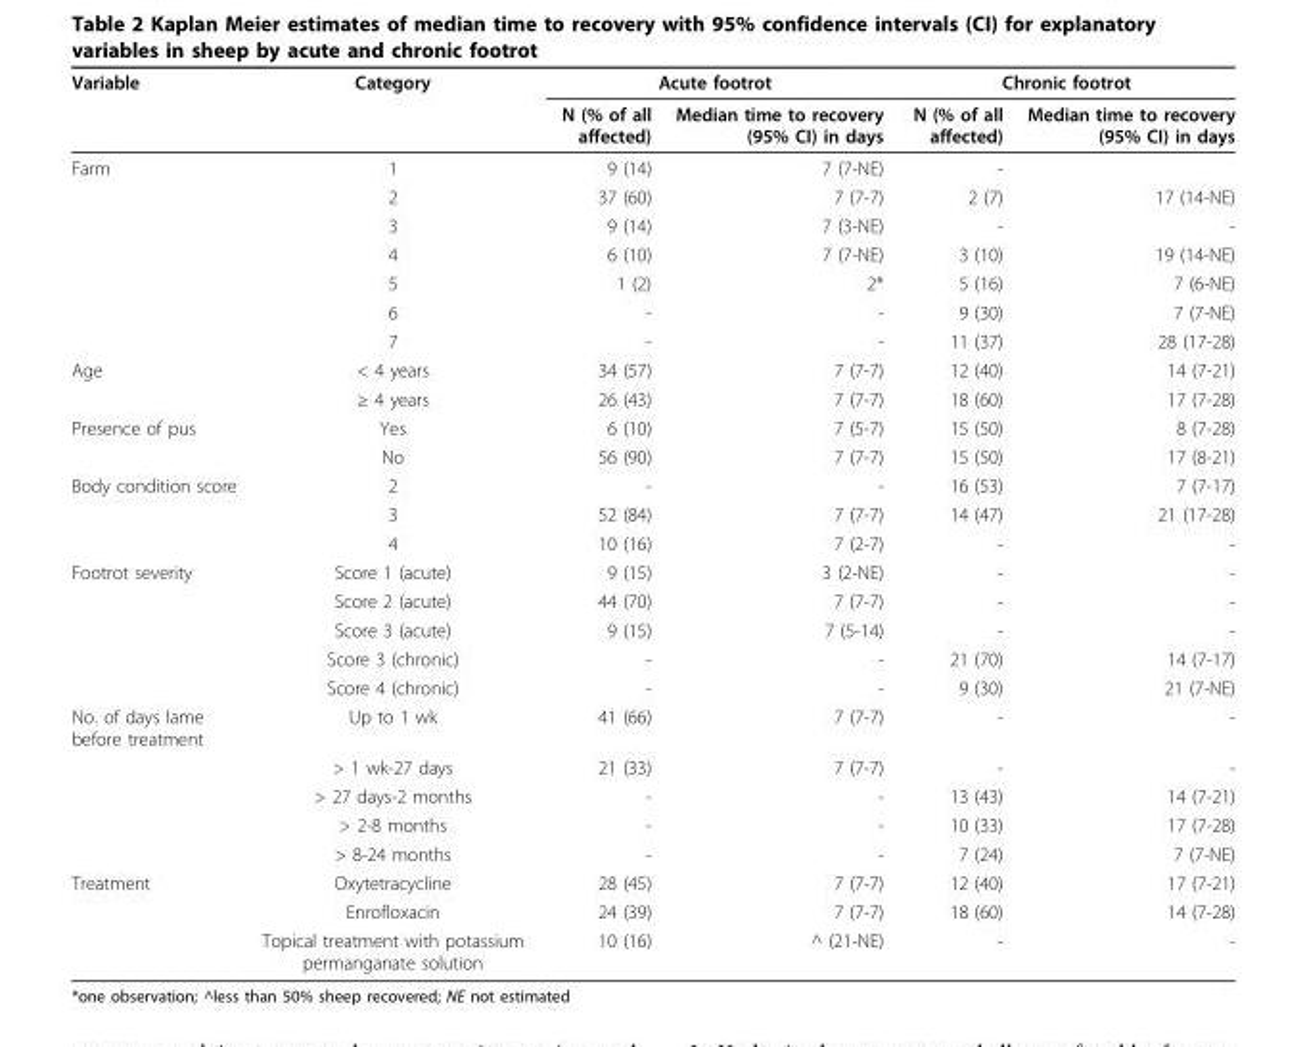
<table><thead><tr><td rowspan="2">Variable</td><td rowspan="2">Category</td><td colspan="2">Acute footrot</td><td colspan="2">Chronic footrot</td></tr><tr><td>N (% of all affected)</td><td>Median time to recovery (95% CI) in days</td><td>N (% of all affected)</td><td>Median time to recovery (95% CI) in days</td></tr></thead><tbody><tr><td rowspan="7">Farm</td><td>1</td><td>9 (14)</td><td>7 (7-NE)</td><td>-</td><td></td></tr><tr><td>2</td><td>37 (60)</td><td>7 (7-7)</td><td>2 (7)</td><td>17 (14-NE)</td></tr><tr><td>3</td><td>9 (14)</td><td>7 (3-NE)</td><td>-</td><td>-</td></tr><tr><td>4</td><td>6 (10)</td><td>7 (7-NE)</td><td>3 (10)</td><td>19 (14-NE)</td></tr><tr><td>5</td><td>1 (2)</td><td>2*</td><td>5 (16)</td><td>7 (6-NE)</td></tr><tr><td>6</td><td>-</td><td>-</td><td>9 (30)</td><td>7 (7-NE)</td></tr><tr><td>7</td><td>-</td><td>-</td><td>11 (37)</td><td>28 (17-28)</td></tr><tr><td rowspan="2">Age</td><td>&lt; 4 years</td><td>34 (57)</td><td>7 (7-7)</td><td>12 (40)</td><td>14 (7-21)</td></tr><tr><td>≥ 4 years</td><td>26 (43)</td><td>7 (7-7)</td><td>18 (60)</td><td>17 (7-28)</td></tr><tr><td rowspan="2">Presence of pus</td><td>Yes</td><td>6 (10)</td><td>7 (5-7)</td><td>15 (50)</td><td>8 (7-28)</td></tr><tr><td>No</td><td>56 (90)</td><td>7 (7-7)</td><td>15 (50)</td><td>17 (8-21)</td></tr><tr><td rowspan="3">Body condition score</td><td>2</td><td>-</td><td>-</td><td>16 (53)</td><td>7 (7-17)</td></tr><tr><td>3</td><td>52 (84)</td><td>7 (7-7)</td><td>14 (47)</td><td>21 (17-28)</td></tr><tr><td>4</td><td>10 (16)</td><td>7 (2-7)</td><td>-</td><td>-</td></tr><tr><td rowspan="5">Footrot severity</td><td>Score 1 (acute)</td><td>9 (15)</td><td>3 (2-NE)</td><td>-</td><td>-</td></tr><tr><td>Score 2 (acute)</td><td>44 (70)</td><td>7 (7-7)</td><td>-</td><td>-</td></tr><tr><td>Score 3 (acute)</td><td>9 (15)</td><td>7 (5-14)</td><td>-</td><td>-</td></tr><tr><td>Score 3 (chronic)</td><td>-</td><td>-</td><td>21 (70)</td><td>14 (7-17)</td></tr><tr><td>Score 4 (chronic)</td><td>-</td><td>-</td><td>9 (30)</td><td>21 (7-NE)</td></tr><tr><td rowspan="5">No. of days lame before treatment</td><td>Up to 1 wk</td><td>41 (66)</td><td>7 (7-7)</td><td>-</td><td>-</td></tr><tr><td>&gt; 1 wk-27 days</td><td>21 (33)</td><td>7 (7-7)</td><td>-</td><td>-</td></tr><tr><td>&gt; 27 days-2 months</td><td>-</td><td>-</td><td>13 (43)</td><td>14 (7-21)</td></tr><tr><td>&gt; 2-8 months</td><td>-</td><td>-</td><td>10 (33)</td><td>17 (7-28)</td></tr><tr><td>&gt; 8-24 months</td><td>-</td><td>-</td><td>7 (24)</td><td>7 (7-NE)</td></tr><tr><td rowspan="3">Treatment</td><td>Oxytetracycline</td><td>28 (45)</td><td>7 (7-7)</td><td>12 (40)</td><td>17 (7-21)</td></tr><tr><td>Enrofloxacin</td><td>24 (39)</td><td>7 (7-7)</td><td>18 (60)</td><td>14 (7-28)</td></tr><tr><td>Topical treatment with potassium permanganate solution</td><td>10 (16)</td><td>^ (21-NE)</td><td>-</td><td>-</td></tr></tbody></table>